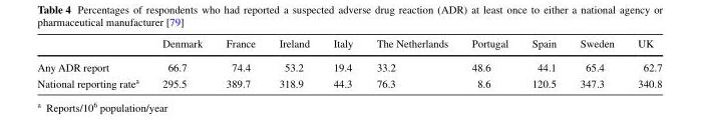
<table><thead><tr><td></td><td>Denmark</td><td>France</td><td>Ireland</td><td>Italy</td><td>The Netherlands</td><td>Portugal</td><td>Spain</td><td>Sweden</td><td>UK</td></tr></thead><tbody><tr><td>Any ADR report</td><td>66.7</td><td>74.4</td><td>53.2</td><td>19.4</td><td>33.2</td><td>48.6</td><td>44.1</td><td>65.4</td><td>62.7</td></tr><tr><td>National reporting rate<sup>a</sup></td><td>295.5</td><td>389.7</td><td>318.9</td><td>44.3</td><td>76.3</td><td>8.6</td><td>120.5</td><td>347.3</td><td>340.8</td></tr></tbody></table>